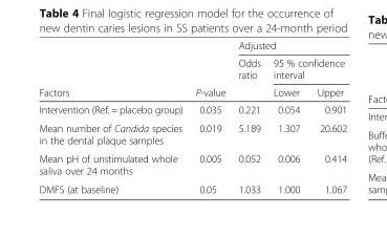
<table><thead><tr><td rowspan="3">Factors</td><td rowspan="3">P-value</td><td colspan="3">Adjusted</td></tr><tr><td rowspan="2">Odds ratio</td><td colspan="2">95 % confidence interval</td></tr><tr><td>Lower</td><td>Upper</td></tr></thead><tbody><tr><td>Intervention (Ref. = placebo group)</td><td>0.035</td><td>0.221</td><td>0.054</td><td>0.901</td></tr><tr><td>Mean number of Candida species in the dental plaque samples</td><td>0.019</td><td>5.189</td><td>1.307</td><td>20.602</td></tr><tr><td>Mean pH of unstimulated whole saliva over 24 months</td><td>0.005</td><td>0.052</td><td>0.006</td><td>0.414</td></tr><tr><td>DMFS (at baseline)</td><td>0.05</td><td>1.033</td><td>1.000</td><td>1.067</td></tr></tbody></table>